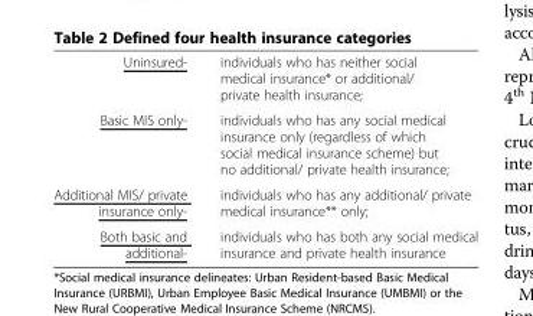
<table><tbody><tr><td>Uninsured-</td><td>individuals who has neither social medical insurance* or additional/ private health insurance;</td></tr><tr><td>Basic MIS only-</td><td>individuals who has any social medical insurance only (regardless of which social medical insurance scheme) but no additional/ private health insurance;</td></tr><tr><td>Additional MIS/ private insurance only-</td><td>individuals who has any additional/ private medical insurance** only;</td></tr><tr><td>Both basic and additional-</td><td>individuals who has both any social medical insurance and private health insurance</td></tr></tbody></table>